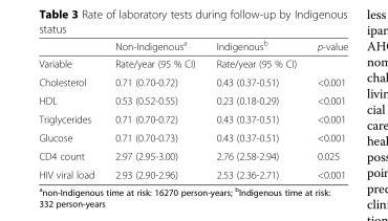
<table><thead><tr><td></td><td>Non-Indigenous<sup>a</sup></td><td>Indigenous<sup>b</sup></td><td>p-value</td></tr></thead><tbody><tr><td>Variable</td><td>Rate/year (95 % CI)</td><td>Rate/year (95 % CI)</td><td></td></tr><tr><td>Cholesterol</td><td>0.71 (0.70-0.72)</td><td>0.43 (0.37-0.51)</td><td>&lt;0.001</td></tr><tr><td>HDL</td><td>0.53 (0.52-0.55)</td><td>0.23 (0.18-0.29)</td><td>&lt;0.001</td></tr><tr><td>Triglycerides</td><td>0.71 (0.70-0.72)</td><td>0.43 (0.37-0.51)</td><td>&lt;0.001</td></tr><tr><td>Glucose</td><td>0.71 (0.70-0.73)</td><td>0.43 (0.37-0.51)</td><td>&lt;0.001</td></tr><tr><td>CD4 count</td><td>2.97 (2.95-3.00)</td><td>2.76 (2.58-2.94)</td><td>0.025</td></tr><tr><td>HIV viral load</td><td>2.93 (2.90-2.96)</td><td>2.53 (2.36-2.71)</td><td>&lt;0.001</td></tr></tbody></table>